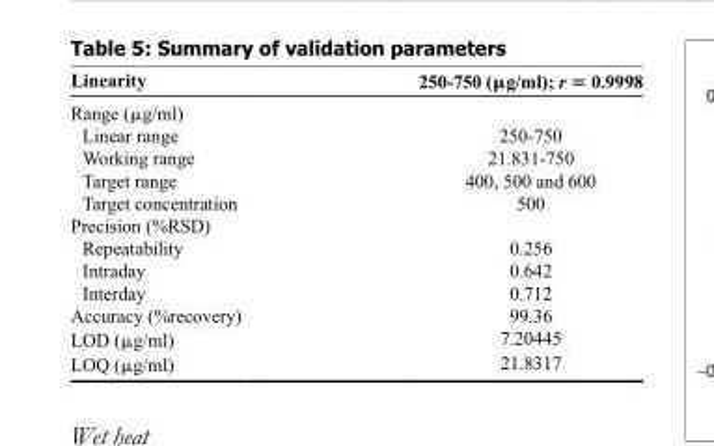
<table><thead><tr><td>Linearity</td><td>250-750 (μg/ml); r = 0.9998</td></tr></thead><tbody><tr><td colspan="2">Range (μg/ml)</td></tr><tr><td>Linear range</td><td>250-750</td></tr><tr><td>Working range</td><td>21.831-750</td></tr><tr><td>Target range</td><td>400, 500 and 600</td></tr><tr><td>Target concentration</td><td>500</td></tr><tr><td colspan="2">Precision (%RSD)</td></tr><tr><td>Repeatability</td><td>0.256</td></tr><tr><td>Intraday</td><td>0.642</td></tr><tr><td>Interday</td><td>0.712</td></tr><tr><td>Accuracy (%recovery)</td><td>99.36</td></tr><tr><td>LOD (μg/ml)</td><td>7.20445</td></tr><tr><td>LOQ (μg/ml)</td><td>21.8317</td></tr></tbody></table>